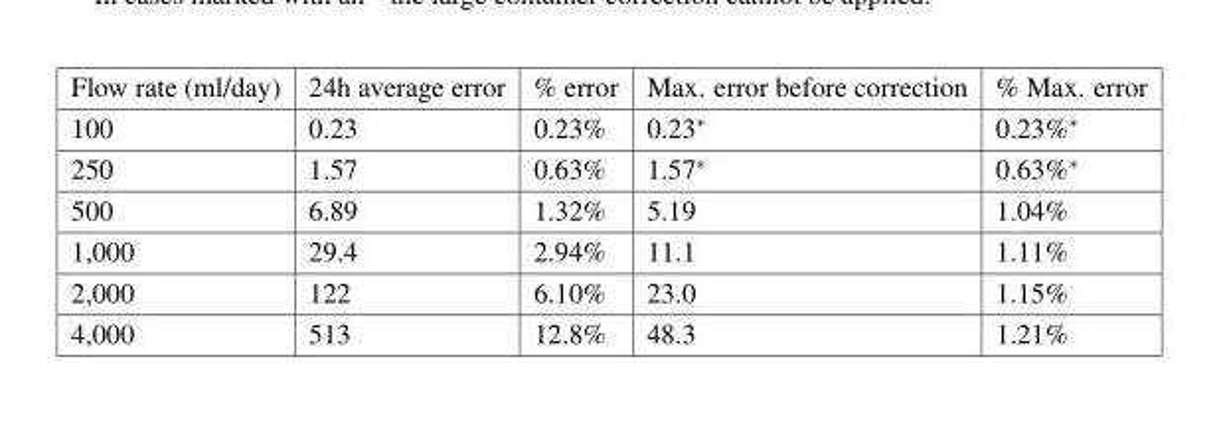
<table><thead><tr><td>Flow rate (ml/day)</td><td>24h average error</td><td>% error</td><td>Max. error before correction</td><td>% Max. error</td></tr></thead><tbody><tr><td>100</td><td>0.23</td><td>0.23%</td><td>0.23∗</td><td>0.23%∗</td></tr><tr><td>250</td><td>1.57</td><td>0.63%</td><td>1.57∗</td><td>0.63%∗</td></tr><tr><td>500</td><td>6.89</td><td>1.32%</td><td>5.19</td><td>1.04%</td></tr><tr><td>1,000</td><td>29.4</td><td>2.94%</td><td>11.1</td><td>1.11%</td></tr><tr><td>2,000</td><td>122</td><td>6.10%</td><td>23.0</td><td>1.15%</td></tr><tr><td>4,000</td><td>513</td><td>12.8%</td><td>48.3</td><td>1.21%</td></tr></tbody></table>